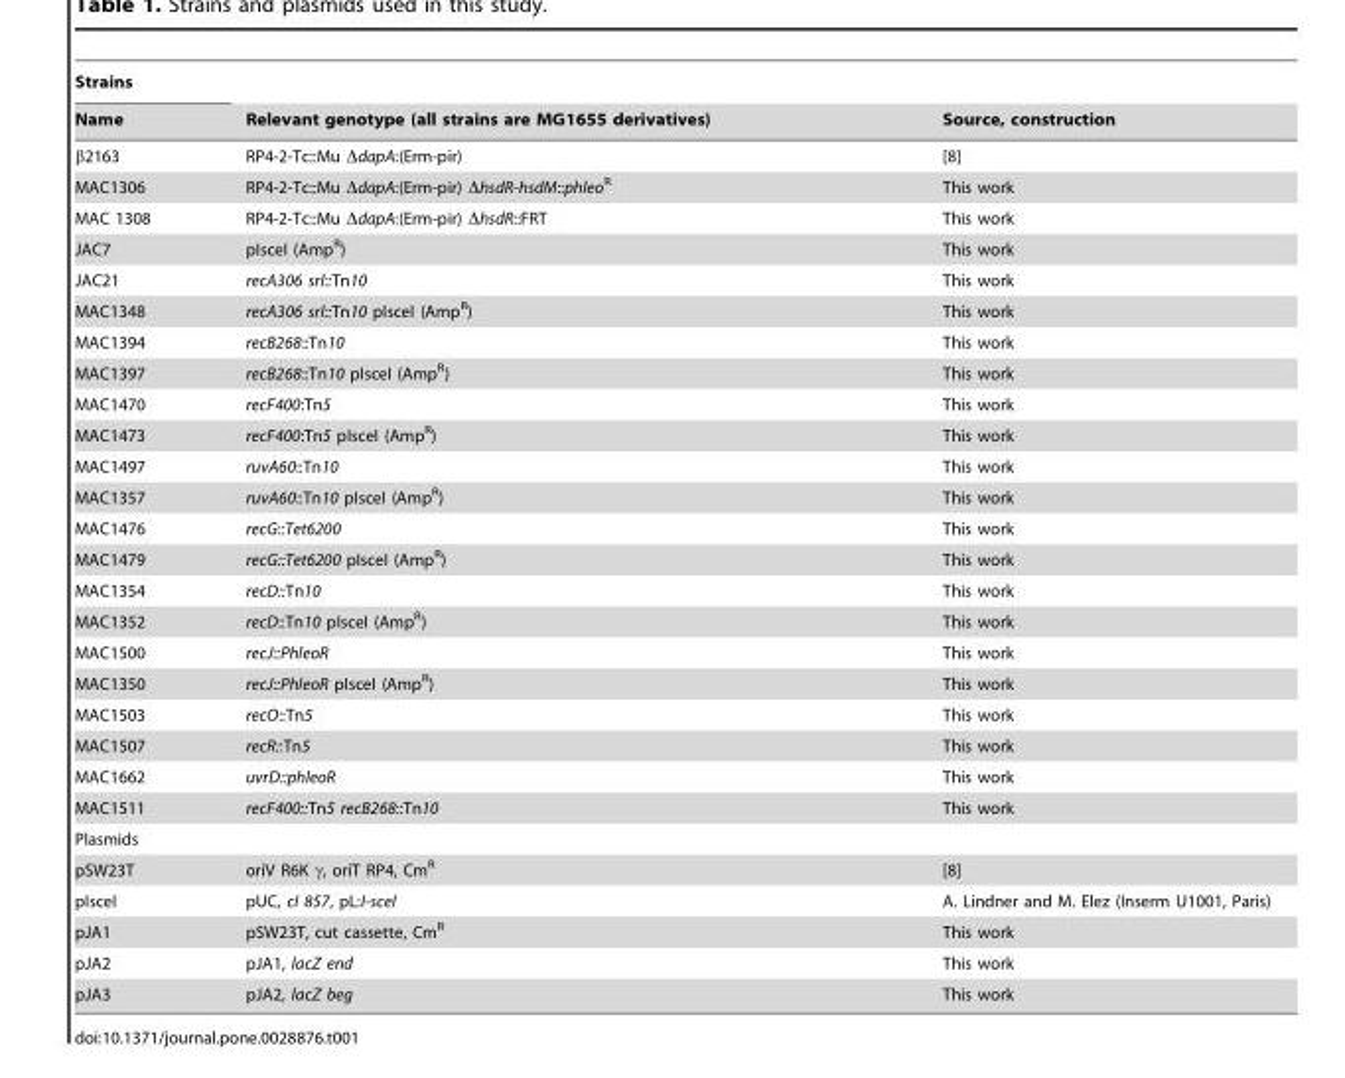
<table><thead><tr><td rowspan="2">Strains Name</td><td rowspan="2">Relevant genotype (all strains are MG1655 derivatives)</td><td rowspan="2">Source, construction</td></tr><tr></tr></thead><tbody><tr><td>β2163</td><td>RP4-2-Tc::Mu ΔdapA:(Erm-pir)</td><td>[8]</td></tr><tr><td>MAC1306</td><td>RP4-2-Tc::Mu ΔdapA:(Erm-pir) ΔhsdR-hsdM::phleo<sup>R</sup></td><td>This work</td></tr><tr><td>MAC 1308</td><td>RP4-2-Tc::Mu ΔdapA:(Erm-pir) ΔhsdR::FRT</td><td>This work</td></tr><tr><td>JAC7</td><td>pIsceI (Amp<sup>R</sup>)</td><td>This work</td></tr><tr><td>JAC21</td><td>recA306 srl::Tn10</td><td>This work</td></tr><tr><td>MAC1348</td><td>recA306 srl::Tn10 pIsceI (Amp<sup>R</sup>)</td><td>This work</td></tr><tr><td>MAC1394</td><td>recB268::Tn10</td><td>This work</td></tr><tr><td>MAC1397</td><td>recB268::Tn10 pIsceI (Amp<sup>R</sup>)</td><td>This work</td></tr><tr><td>MAC1470</td><td>recF400:Tn5</td><td>This work</td></tr><tr><td>MAC1473</td><td>recF400:Tn5 pIsceI (Amp<sup>R</sup>)</td><td>This work</td></tr><tr><td>MAC1497</td><td>ruvA60::Tn10</td><td>This work</td></tr><tr><td>MAC1357</td><td>ruvA60::Tn10 pIsceI (Amp<sup>R</sup>)</td><td>This work</td></tr><tr><td>MAC1476</td><td>recG::Tet6200</td><td>This work</td></tr><tr><td>MAC1479</td><td>recG::Tet6200 pIsceI (Amp<sup>R</sup>)</td><td>This work</td></tr><tr><td>MAC1354</td><td>recD::Tn10</td><td>This work</td></tr><tr><td>MAC1352</td><td>recD::Tn10 pIsceI (Amp<sup>R</sup>)</td><td>This work</td></tr><tr><td>MAC1500</td><td>recJ::PhleoR</td><td>This work</td></tr><tr><td>MAC1350</td><td>recJ::PhleoR pIsceI (Amp<sup>R</sup>)</td><td>This work</td></tr><tr><td>MAC1503</td><td>recO::Tn5</td><td>This work</td></tr><tr><td>MAC1507</td><td>recR::Tn5</td><td>This work</td></tr><tr><td>MAC1662</td><td>uvrD::phleoR</td><td>This work</td></tr><tr><td>MAC1511</td><td>recF400::Tn5 recB268::Tn10</td><td>This work</td></tr><tr><td colspan="3">Plasmids</td></tr><tr><td>pSW23T</td><td>oriV R6K γ, oriT RP4, Cm<sup>R</sup></td><td>[8]</td></tr><tr><td>pIsceI</td><td>pUC, cI 857, pL:I-sceI</td><td>A. Lindner and M. Elez (Inserm U1001, Paris)</td></tr><tr><td>pJA1</td><td>pSW23T, cut cassette, Cm<sup>R</sup></td><td>This work</td></tr><tr><td>pJA2</td><td>pJA1, lacZ end</td><td>This work</td></tr><tr><td>pJA3</td><td>pJA2, lacZ beg</td><td>This work</td></tr></tbody></table>